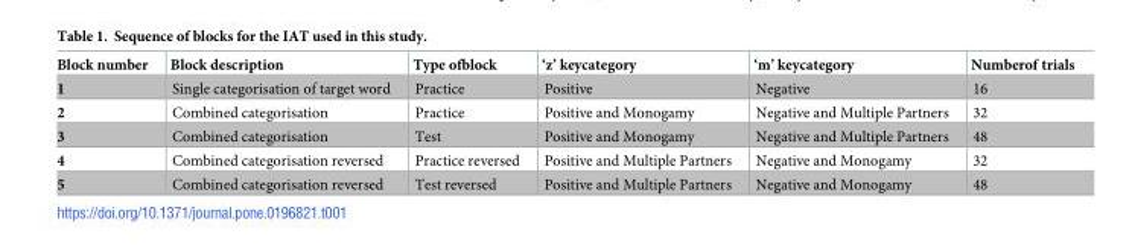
<table><thead><tr><td>Block number</td><td>Block description</td><td>Type ofblock</td><td>‘z’ keycategory</td><td>‘m’ keycategory</td><td>Numberof trials</td></tr></thead><tbody><tr><td>1</td><td>Single categorisation of target word</td><td>Practice</td><td>Positive</td><td>Negative</td><td>16</td></tr><tr><td>2</td><td>Combined categorisation</td><td>Practice</td><td>Positive and Monogamy</td><td>Negative and Multiple Partners</td><td>32</td></tr><tr><td>3</td><td>Combined categorisation</td><td>Test</td><td>Positive and Monogamy</td><td>Negative and Multiple Partners</td><td>48</td></tr><tr><td>4</td><td>Combined categorisation reversed</td><td>Practice reversed</td><td>Positive and Multiple Partners</td><td>Negative and Monogamy</td><td>32</td></tr><tr><td>5</td><td>Combined categorisation reversed</td><td>Test reversed</td><td>Positive and Multiple Partners</td><td>Negative and Monogamy</td><td>48</td></tr></tbody></table>